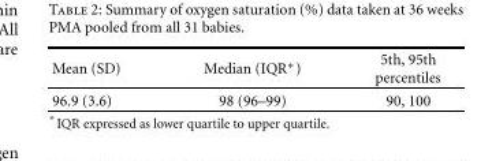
<table><thead><tr><td>Mean (SD)</td><td>Median (IQR∗)</td><td>5th, 95th percentiles</td></tr></thead><tbody><tr><td>96.9 (3.6)</td><td>98 (96–99)</td><td>90, 100</td></tr></tbody></table>